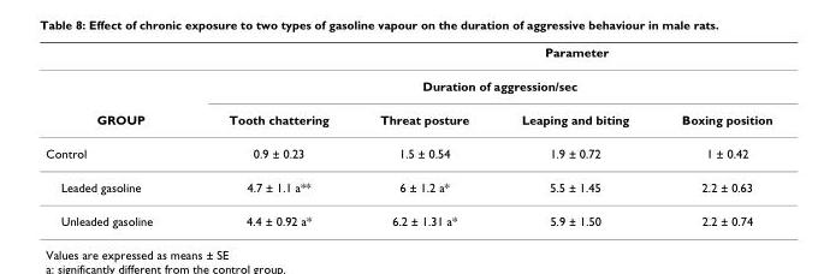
<table><thead><tr><td rowspan="3">GROUP</td><td></td><td colspan="3">Parameter</td></tr><tr><td colspan="4">Duration of aggression/sec</td></tr><tr><td>Tooth chattering</td><td>Threat posture</td><td>Leaping and biting</td><td>Boxing position</td></tr></thead><tbody><tr><td>Control</td><td>0.9 ± 0.23</td><td>1.5 ± 0.54</td><td>1.9 ± 0.72</td><td>1 ± 0.42</td></tr><tr><td>Leaded gasoline</td><td>4.7 ± 1.1 a**</td><td>6 ± 1.2 a*</td><td>5.5 ± 1.45</td><td>2.2 ± 0.63</td></tr><tr><td>Unleaded gasoline</td><td>4.4 ± 0.92 a*</td><td>6.2 ± 1.31 a*</td><td>5.9 ± 1.50</td><td>2.2 ± 0.74</td></tr></tbody></table>